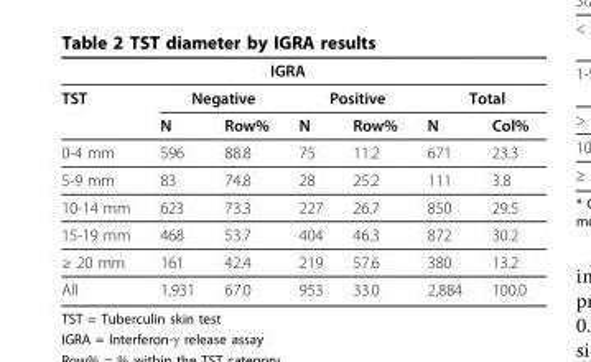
<table><thead><tr><td rowspan="3">TST</td><td colspan="4">IGRA</td><td></td><td></td></tr><tr><td colspan="2">Negative</td><td colspan="2">Positive</td><td colspan="2">Total</td></tr><tr><td>N</td><td>Row%</td><td>N</td><td>Row%</td><td>N</td><td>Col%</td></tr></thead><tbody><tr><td>0-4 mm</td><td>596</td><td>88.8</td><td>75</td><td>11.2</td><td>671</td><td>23.3</td></tr><tr><td>5-9 mm</td><td>83</td><td>74.8</td><td>28</td><td>25.2</td><td>111</td><td>3.8</td></tr><tr><td>10-14 mm</td><td>623</td><td>73.3</td><td>227</td><td>26.7</td><td>850</td><td>29.5</td></tr><tr><td>15-19 mm</td><td>468</td><td>53.7</td><td>404</td><td>46.3</td><td>872</td><td>30.2</td></tr><tr><td>≥ 20 mm</td><td>161</td><td>42.4</td><td>219</td><td>57.6</td><td>380</td><td>13.2</td></tr><tr><td>All</td><td>1,931</td><td>67.0</td><td>953</td><td>33.0</td><td>2,884</td><td>100.0</td></tr></tbody></table>